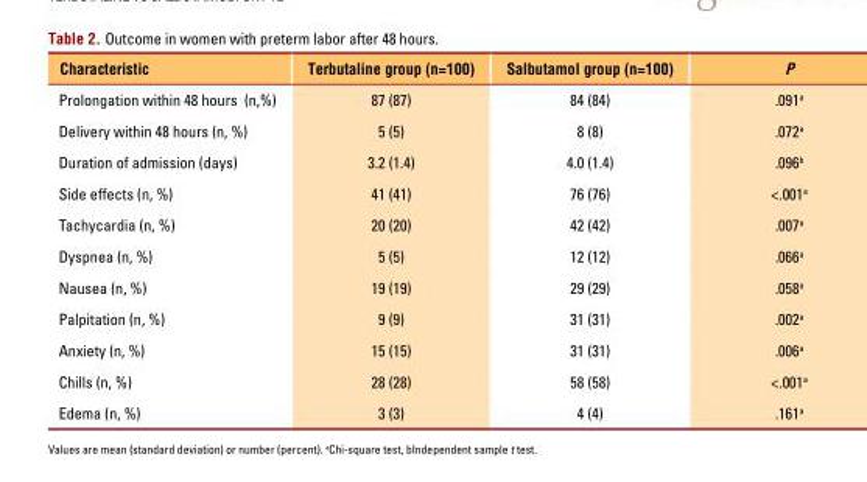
<table><thead><tr><td>Characteristic</td><td>Terbutaline group (n=100)</td><td>Salbutamol group (n=100)</td><td>P</td></tr></thead><tbody><tr><td>Prolongation within 48 hours (n,%)</td><td>87 (87)</td><td>84 (84)</td><td>.091<sup>a</sup></td></tr><tr><td>Delivery within 48 hours (n, %)</td><td>5 (5)</td><td>8 (8)</td><td>.072<sup>a</sup></td></tr><tr><td>Duration of admission (days)</td><td>3.2 (1.4)</td><td>4.0 (1.4)</td><td>.096<sup>b</sup></td></tr><tr><td>Side effects (n, %)</td><td>41 (41)</td><td>76 (76)</td><td>&lt;.001<sup>a</sup></td></tr><tr><td>Tachycardia (n, %)</td><td>20 (20)</td><td>42 (42)</td><td>.007<sup>a</sup></td></tr><tr><td>Dyspnea (n, %)</td><td>5 (5)</td><td>12 (12)</td><td>.066<sup>a</sup></td></tr><tr><td>Nausea (n, %)</td><td>19 (19)</td><td>29 (29)</td><td>.058<sup>a</sup></td></tr><tr><td>Palpitation (n, %)</td><td>9 (9)</td><td>31 (31)</td><td>.002<sup>a</sup></td></tr><tr><td>Anxiety (n, %)</td><td>15 (15)</td><td>31 (31)</td><td>.006<sup>a</sup></td></tr><tr><td>Chills (n, %)</td><td>28 (28)</td><td>58 (58)</td><td>&lt;.001<sup>a</sup></td></tr><tr><td>Edema (n, %)</td><td>3 (3)</td><td>4 (4)</td><td>.161<sup>a</sup></td></tr></tbody></table>